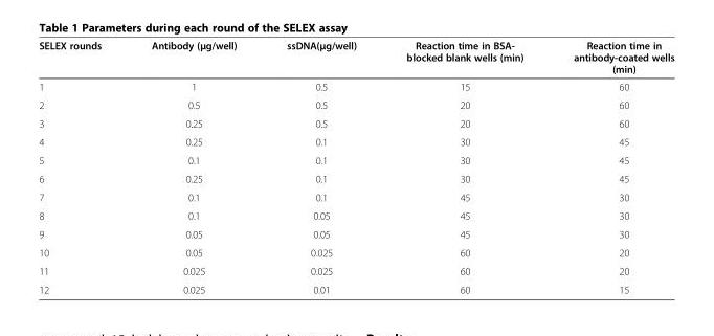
<table><thead><tr><td>SELEX rounds</td><td>Antibody (μg/well)</td><td>ssDNA(μg/well)</td><td>Reaction time in BSA- blocked blank wells (min)</td><td>Reaction time in antibody-coated wells (min)</td></tr></thead><tbody><tr><td>1</td><td>1</td><td>0.5</td><td>15</td><td>60</td></tr><tr><td>2</td><td>0.5</td><td>0.5</td><td>20</td><td>60</td></tr><tr><td>3</td><td>0.25</td><td>0.5</td><td>20</td><td>60</td></tr><tr><td>4</td><td>0.25</td><td>0.1</td><td>30</td><td>45</td></tr><tr><td>5</td><td>0.1</td><td>0.1</td><td>30</td><td>45</td></tr><tr><td>6</td><td>0.25</td><td>0.1</td><td>30</td><td>45</td></tr><tr><td>7</td><td>0.1</td><td>0.1</td><td>45</td><td>30</td></tr><tr><td>8</td><td>0.1</td><td>0.05</td><td>45</td><td>30</td></tr><tr><td>9</td><td>0.05</td><td>0.05</td><td>45</td><td>30</td></tr><tr><td>10</td><td>0.05</td><td>0.025</td><td>60</td><td>20</td></tr><tr><td>11</td><td>0.025</td><td>0.025</td><td>60</td><td>20</td></tr><tr><td>12</td><td>0.025</td><td>0.01</td><td>60</td><td>15</td></tr></tbody></table>